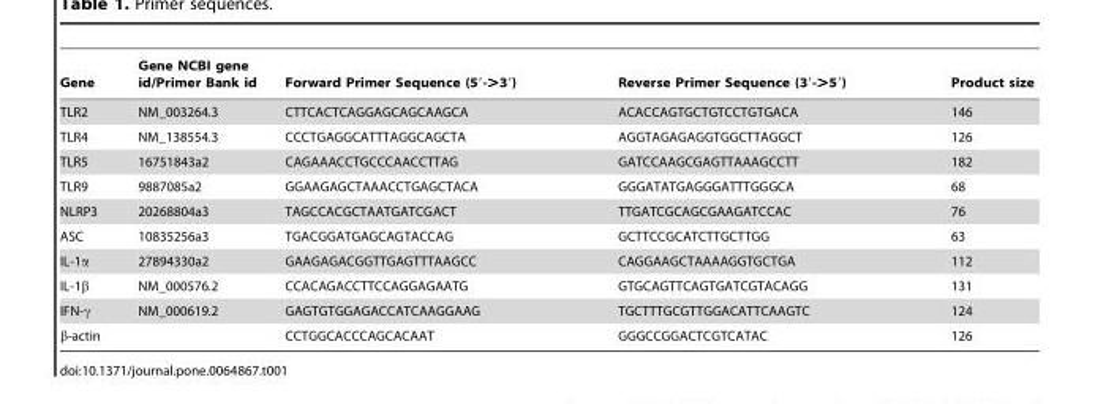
<table><thead><tr><td>Gene</td><td>Gene NCBI gene id/Primer Bank id</td><td>Forward Primer Sequence (5′-&gt;3′)</td><td>Reverse Primer Sequence (3′-&gt;5′)</td><td>Product size</td></tr></thead><tbody><tr><td>TLR2</td><td>NM_003264.3</td><td>CTTCACTCAGGAGCAGCAAGCA</td><td>ACACCAGTGCTGTCCTGTGACA</td><td>146</td></tr><tr><td>TLR4</td><td>NM_138554.3</td><td>CCCTGAGGCATTTAGGCAGCTA</td><td>AGGTAGAGAGGTGGCTTAGGCT</td><td>126</td></tr><tr><td>TLR5</td><td>16751843a2</td><td>CAGAAACCTGCCCAACCTTAG</td><td>GATCCAAGCGAGTTAAAGCCTT</td><td>182</td></tr><tr><td>TLR9</td><td>9887085a2</td><td>GGAAGAGCTAAACCTGAGCTACA</td><td>GGGATATGAGGGATTTGGGCA</td><td>68</td></tr><tr><td>NLRP3</td><td>20268804a3</td><td>TAGCCACGCTAATGATCGACT</td><td>TTGATCGCAGCGAAGATCCAC</td><td>76</td></tr><tr><td>ASC</td><td>10835256a3</td><td>TGACGGATGAGCAGTACCAG</td><td>GCTTCCGCATCTTGCTTGG</td><td>63</td></tr><tr><td>IL-1α</td><td>27894330a2</td><td>GAAGAGACGGTTGAGTTTAAGCC</td><td>CAGGAAGCTAAAAGGTGCTGA</td><td>112</td></tr><tr><td>IL-1β</td><td>NM_000576.2</td><td>CCACAGACCTTCCAGGAGAATG</td><td>GTGCAGTTCAGTGATCGTACAGG</td><td>131</td></tr><tr><td>IFN-γ</td><td>NM_000619.2</td><td>GAGTGTGGAGACCATCAAGGAAG</td><td>TGCTTTGCGTTGGACATTCAAGTC</td><td>124</td></tr><tr><td>β-actin</td><td></td><td>CCTGGCACCCAGCACAAT</td><td>GGGCCGGACTCGTCATAC</td><td>126</td></tr></tbody></table>